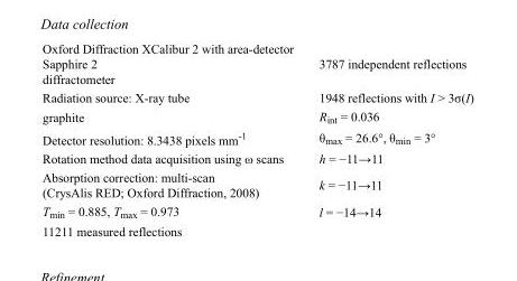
<table><tbody><tr><td>Oxford Diffraction XCalibur 2 with area-detector Sapphire 2 diffractometer</td><td>3787 independent reflections</td></tr><tr><td>Radiation source: X-ray tube</td><td>1948 reflections with I &gt; 3σ(I)</td></tr><tr><td>graphite</td><td>R<sub>int</sub> = 0.036</td></tr><tr><td>Detector resolution: 8.3438 pixels mm<sup>-1</sup></td><td>θ<sub>max</sub> = 26.6°, θ<sub>min</sub> = 3°</td></tr><tr><td>Rotation method data acquisition using ω scans</td><td>h = −11→11</td></tr><tr><td>Absorption correction: multi-scan (CrysAlis RED; Oxford Diffraction, 2008)</td><td>k = −11→11</td></tr><tr><td>T<sub>min</sub> = 0.885, T<sub>max</sub> = 0.973</td><td>l = −14→14</td></tr><tr><td>11211 measured reflections</td><td></td></tr></tbody></table>